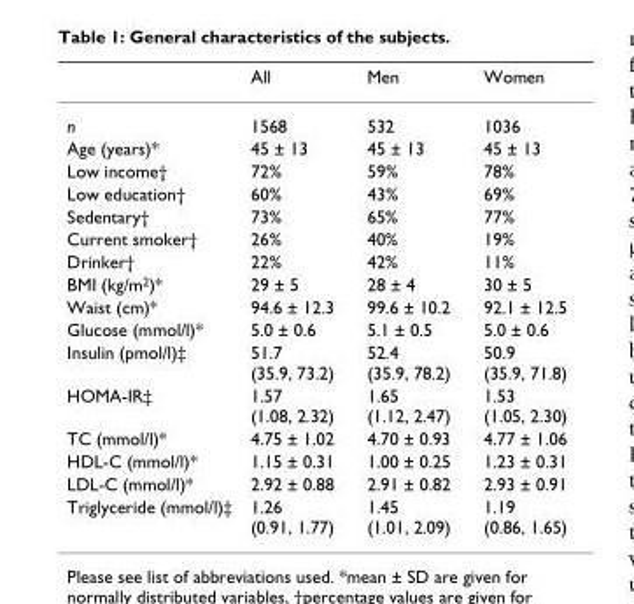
<table><thead><tr><td></td><td>All</td><td>Men</td><td>Women</td></tr></thead><tbody><tr><td>n</td><td>1568</td><td>532</td><td>1036</td></tr><tr><td>Age (years)*</td><td>45 ± 13</td><td>45 ± 13</td><td>45 ± 13</td></tr><tr><td>Low income†</td><td>72%</td><td>59%</td><td>78%</td></tr><tr><td>Low education†</td><td>60%</td><td>43%</td><td>69%</td></tr><tr><td>Sedentary†</td><td>73%</td><td>65%</td><td>77%</td></tr><tr><td>Current smoker†</td><td>26%</td><td>40%</td><td>19%</td></tr><tr><td>Drinker†</td><td>22%</td><td>42%</td><td>11%</td></tr><tr><td>BMI (kg/m<sup>2</sup>)*</td><td>29 ± 5</td><td>28 ± 4</td><td>30 ± 5</td></tr><tr><td>Waist (cm)*</td><td>94.6 ± 12.3</td><td>99.6 ± 10.2</td><td>92.1 ± 12.5</td></tr><tr><td>Glucose (mmol/l)*</td><td>5.0 ± 0.6</td><td>5.1 ± 0.5</td><td>5.0 ± 0.6</td></tr><tr><td>Insulin (pmol/l)‡</td><td>51.7 (35.9, 73.2)</td><td>52.4 (35.9, 78.2)</td><td>50.9 (35.9, 71.8)</td></tr><tr><td>HOMA-IR‡</td><td>1.57 (1.08, 2.32)</td><td>1.65 (1.12, 2.47)</td><td>1.53 (1.05, 2.30)</td></tr><tr><td>TC (mmol/l)*</td><td>4.75 ± 1.02</td><td>4.70 ± 0.93</td><td>4.77 ± 1.06</td></tr><tr><td>HDL-C (mmol/l)*</td><td>1.15 ± 0.31</td><td>1.00 ± 0.25</td><td>1.23 ± 0.31</td></tr><tr><td>LDL-C (mmol/l)*</td><td>2.92 ± 0.88</td><td>2.91 ± 0.82</td><td>2.93 ± 0.91</td></tr><tr><td>Triglyceride (mmol/l)‡</td><td>1.26 (0.91, 1.77)</td><td>1.45 (1.01, 2.09)</td><td>1.19 (0.86, 1.65)</td></tr></tbody></table>